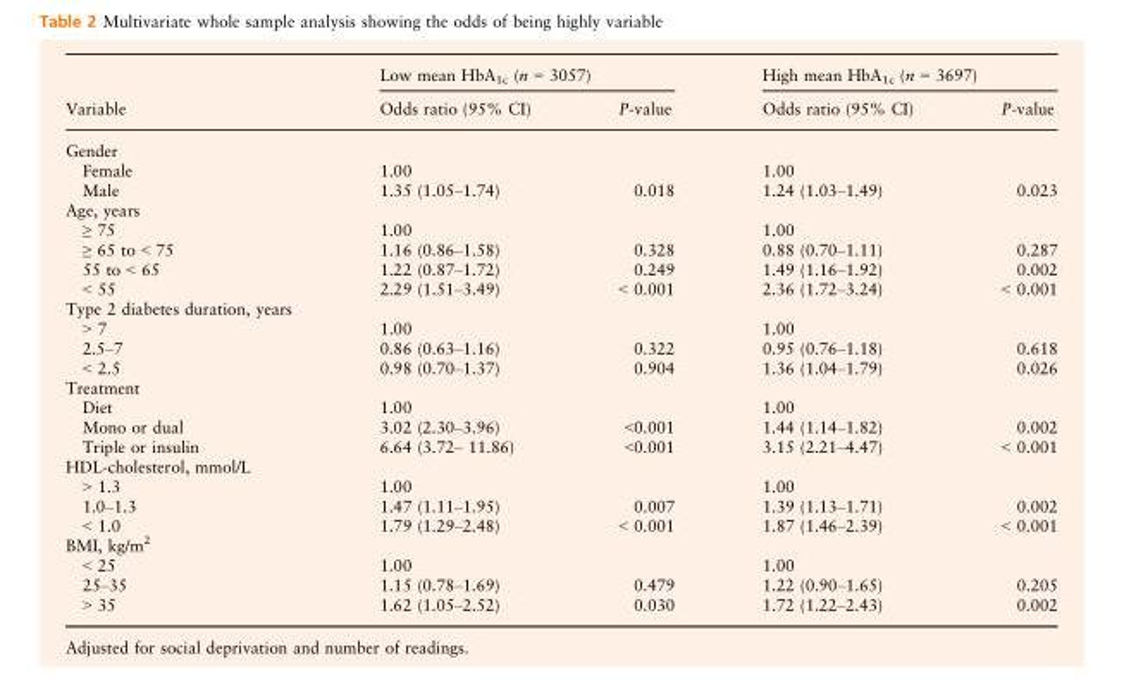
<table><thead><tr><td rowspan="2">Variable</td><td colspan="2">Low mean HbA<sub>1c</sub> (n = 3057)</td><td colspan="2">High mean HbA<sub>1c</sub> (n = 3697)</td></tr><tr><td>Odds ratio (95% CI)</td><td>P-value</td><td>Odds ratio (95% CI)</td><td>P-value</td></tr></thead><tbody><tr><td colspan="5">Gender</td></tr><tr><td>Female</td><td>1.00</td><td></td><td>1.00</td><td></td></tr><tr><td>Male</td><td>1.35 (1.05–1.74)</td><td>0.018</td><td>1.24 (1.03–1.49)</td><td>0.023</td></tr><tr><td colspan="5">Age, years</td></tr><tr><td>≥ 75</td><td>1.00</td><td></td><td>1.00</td><td></td></tr><tr><td>≥ 65 to &lt; 75</td><td>1.16 (0.86–1.58)</td><td>0.328</td><td>0.88 (0.70–1.11)</td><td>0.287</td></tr><tr><td>55 to &lt; 65</td><td>1.22 (0.87–1.72)</td><td>0.249</td><td>1.49 (1.16–1.92)</td><td>0.002</td></tr><tr><td>&lt; 55</td><td>2.29 (1.51–3.49)</td><td>&lt; 0.001</td><td>2.36 (1.72–3.24)</td><td>&lt; 0.001</td></tr><tr><td colspan="5">Type 2 diabetes duration, years</td></tr><tr><td>&gt; 7</td><td>1.00</td><td></td><td>1.00</td><td></td></tr><tr><td>2.5–7</td><td>0.86 (0.63–1.16)</td><td>0.322</td><td>0.95 (0.76–1.18)</td><td>0.618</td></tr><tr><td>&lt; 2.5</td><td>0.98 (0.70–1.37)</td><td>0.904</td><td>1.36 (1.04–1.79)</td><td>0.026</td></tr><tr><td colspan="5">Treatment</td></tr><tr><td>Diet</td><td>1.00</td><td></td><td>1.00</td><td></td></tr><tr><td>Mono or dual</td><td>3.02 (2.30–3.96)</td><td>&lt;0.001</td><td>1.44 (1.14–1.82)</td><td>0.002</td></tr><tr><td>Triple or insulin</td><td>6.64 (3.72– 11.86)</td><td>&lt;0.001</td><td>3.15 (2.21–4.47)</td><td>&lt; 0.001</td></tr><tr><td colspan="5">HDL-cholesterol, mmol/L</td></tr><tr><td>&gt; 1.3</td><td>1.00</td><td></td><td>1.00</td><td></td></tr><tr><td>1.0–1.3</td><td>1.47 (1.11–1.95)</td><td>0.007</td><td>1.39 (1.13–1.71)</td><td>0.002</td></tr><tr><td>&lt; 1.0</td><td>1.79 (1.29–2.48)</td><td>&lt; 0.001</td><td>1.87 (1.46–2.39)</td><td>&lt; 0.001</td></tr><tr><td colspan="5">BMI, kg/m<sup>2</sup></td></tr><tr><td>&lt; 25</td><td>1.00</td><td></td><td>1.00</td><td></td></tr><tr><td>25–35</td><td>1.15 (0.78–1.69)</td><td>0.479</td><td>1.22 (0.90–1.65)</td><td>0.205</td></tr><tr><td>&gt; 35</td><td>1.62 (1.05–2.52)</td><td>0.030</td><td>1.72 (1.22–2.43)</td><td>0.002</td></tr></tbody></table>